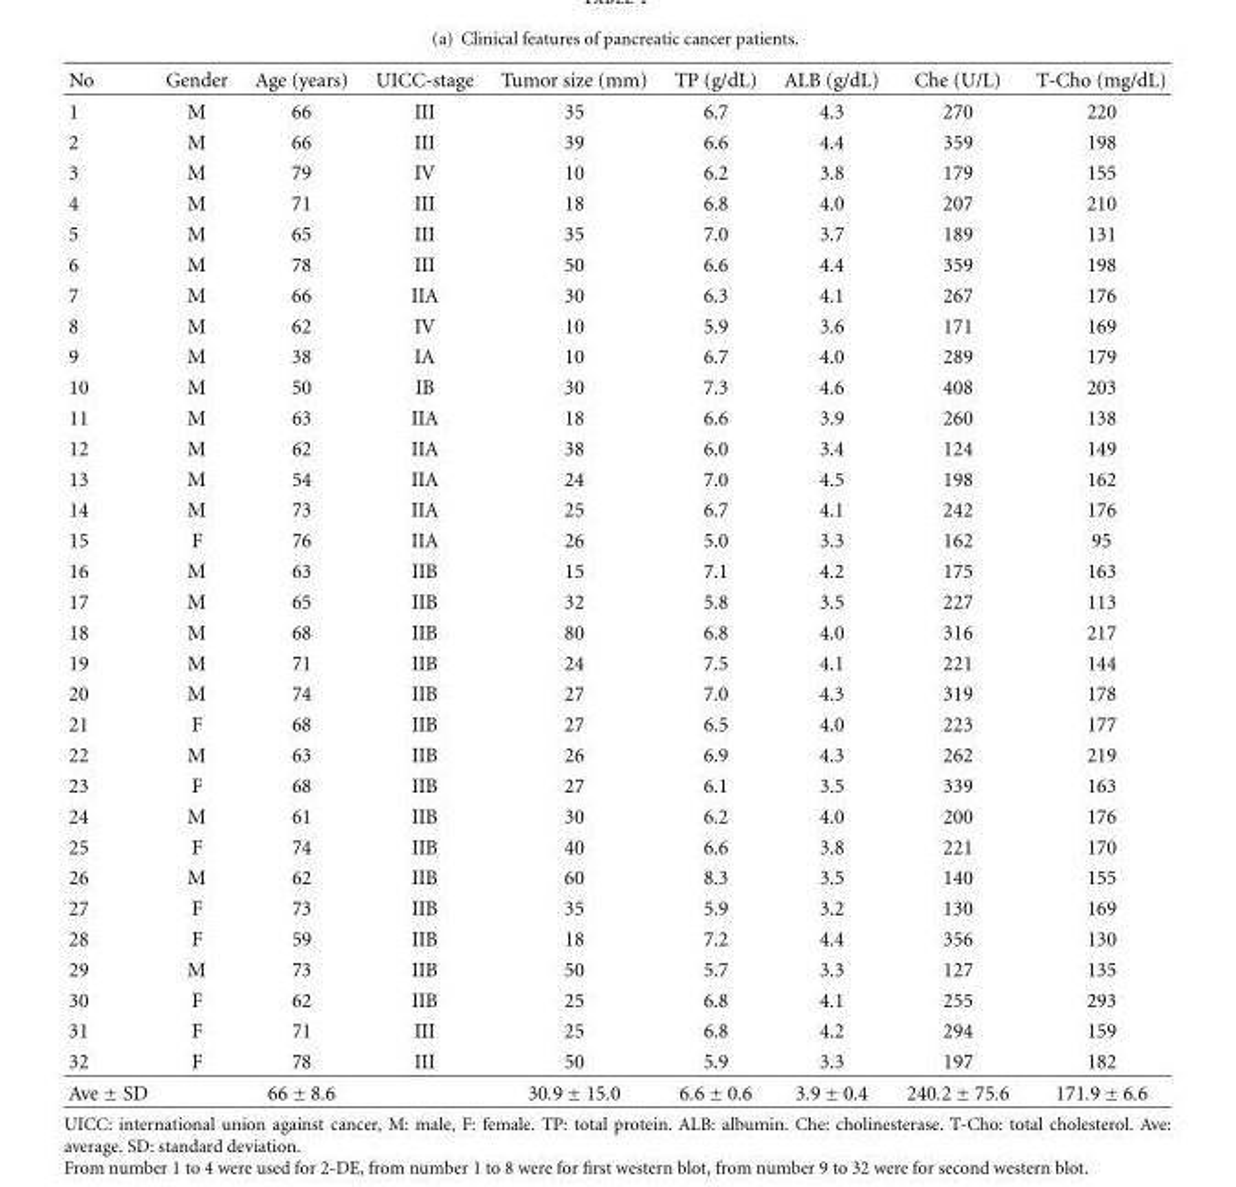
<table><thead><tr><td>No</td><td>Gender</td><td>Age (years)</td><td>UICC-stage</td><td>Tumor size (mm)</td><td>TP (g/dL)</td><td>ALB (g/dL)</td><td>Che (U/L)</td><td>T-Cho (mg/dL)</td></tr></thead><tbody><tr><td>1</td><td>M</td><td>66</td><td>III</td><td>35</td><td>6.7</td><td>4.3</td><td>270</td><td>220</td></tr><tr><td>2</td><td>M</td><td>66</td><td>III</td><td>39</td><td>6.6</td><td>4.4</td><td>359</td><td>198</td></tr><tr><td>3</td><td>M</td><td>79</td><td>IV</td><td>10</td><td>6.2</td><td>3.8</td><td>179</td><td>155</td></tr><tr><td>4</td><td>M</td><td>71</td><td>III</td><td>18</td><td>6.8</td><td>4.0</td><td>207</td><td>210</td></tr><tr><td>5</td><td>M</td><td>65</td><td>III</td><td>35</td><td>7.0</td><td>3.7</td><td>189</td><td>131</td></tr><tr><td>6</td><td>M</td><td>78</td><td>III</td><td>50</td><td>6.6</td><td>4.4</td><td>359</td><td>198</td></tr><tr><td>7</td><td>M</td><td>66</td><td>IIA</td><td>30</td><td>6.3</td><td>4.1</td><td>267</td><td>176</td></tr><tr><td>8</td><td>M</td><td>62</td><td>IV</td><td>10</td><td>5.9</td><td>3.6</td><td>171</td><td>169</td></tr><tr><td>9</td><td>M</td><td>38</td><td>IA</td><td>10</td><td>6.7</td><td>4.0</td><td>289</td><td>179</td></tr><tr><td>10</td><td>M</td><td>50</td><td>IB</td><td>30</td><td>7.3</td><td>4.6</td><td>408</td><td>203</td></tr><tr><td>11</td><td>M</td><td>63</td><td>IIA</td><td>18</td><td>6.6</td><td>3.9</td><td>260</td><td>138</td></tr><tr><td>12</td><td>M</td><td>62</td><td>IIA</td><td>38</td><td>6.0</td><td>3.4</td><td>124</td><td>149</td></tr><tr><td>13</td><td>M</td><td>54</td><td>IIA</td><td>24</td><td>7.0</td><td>4.5</td><td>198</td><td>162</td></tr><tr><td>14</td><td>M</td><td>73</td><td>IIA</td><td>25</td><td>6.7</td><td>4.1</td><td>242</td><td>176</td></tr><tr><td>15</td><td>F</td><td>76</td><td>IIA</td><td>26</td><td>5.0</td><td>3.3</td><td>162</td><td>95</td></tr><tr><td>16</td><td>M</td><td>63</td><td>IIB</td><td>15</td><td>7.1</td><td>4.2</td><td>175</td><td>163</td></tr><tr><td>17</td><td>M</td><td>65</td><td>IIB</td><td>32</td><td>5.8</td><td>3.5</td><td>227</td><td>113</td></tr><tr><td>18</td><td>M</td><td>68</td><td>IIB</td><td>80</td><td>6.8</td><td>4.0</td><td>316</td><td>217</td></tr><tr><td>19</td><td>M</td><td>71</td><td>IIB</td><td>24</td><td>7.5</td><td>4.1</td><td>221</td><td>144</td></tr><tr><td>20</td><td>M</td><td>74</td><td>IIB</td><td>27</td><td>7.0</td><td>4.3</td><td>319</td><td>178</td></tr><tr><td>21</td><td>F</td><td>68</td><td>IIB</td><td>27</td><td>6.5</td><td>4.0</td><td>223</td><td>177</td></tr><tr><td>22</td><td>M</td><td>63</td><td>IIB</td><td>26</td><td>6.9</td><td>4.3</td><td>262</td><td>219</td></tr><tr><td>23</td><td>F</td><td>68</td><td>IIB</td><td>27</td><td>6.1</td><td>3.5</td><td>339</td><td>163</td></tr><tr><td>24</td><td>M</td><td>61</td><td>IIB</td><td>30</td><td>6.2</td><td>4.0</td><td>200</td><td>176</td></tr><tr><td>25</td><td>F</td><td>74</td><td>IIB</td><td>40</td><td>6.6</td><td>3.8</td><td>221</td><td>170</td></tr><tr><td>26</td><td>M</td><td>62</td><td>IIB</td><td>60</td><td>8.3</td><td>3.5</td><td>140</td><td>155</td></tr><tr><td>27</td><td>F</td><td>73</td><td>IIB</td><td>35</td><td>5.9</td><td>3.2</td><td>130</td><td>169</td></tr><tr><td>28</td><td>F</td><td>59</td><td>IIB</td><td>18</td><td>7.2</td><td>4.4</td><td>356</td><td>130</td></tr><tr><td>29</td><td>M</td><td>73</td><td>IIB</td><td>50</td><td>5.7</td><td>3.3</td><td>127</td><td>135</td></tr><tr><td>30</td><td>F</td><td>62</td><td>IIB</td><td>25</td><td>6.8</td><td>4.1</td><td>255</td><td>293</td></tr><tr><td>31</td><td>F</td><td>71</td><td>III</td><td>25</td><td>6.8</td><td>4.2</td><td>294</td><td>159</td></tr><tr><td>32</td><td>F</td><td>78</td><td>III</td><td>50</td><td>5.9</td><td>3.3</td><td>197</td><td>182</td></tr><tr><td>Ave ± SD</td><td></td><td>66 ± 8.6</td><td></td><td>30.9 ± 15.0</td><td>6.6 ± 0.6</td><td>3.9 ± 0.4</td><td>240.2 ± 75.6</td><td>171.9 ± 6.6</td></tr></tbody></table>